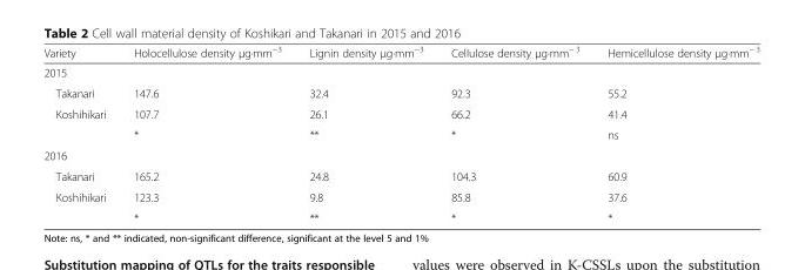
<table><thead><tr><td>Variety</td><td>Holocellulose density μg·mm<sup>−3</sup></td><td>Lignin density μg·mm<sup>−3</sup></td><td>Cellulose density μg·mm<sup>− 3</sup></td><td>Hemicellulose density μg·mm<sup>− 3</sup></td></tr></thead><tbody><tr><td colspan="5">2015</td></tr><tr><td>Takanari</td><td>147.6</td><td>32.4</td><td>92.3</td><td>55.2</td></tr><tr><td rowspan="2">Koshihikari</td><td>107.7</td><td>26.1</td><td>66.2</td><td>41.4</td></tr><tr><td>*</td><td>**</td><td>*</td><td>ns</td></tr><tr><td colspan="5">2016</td></tr><tr><td>Takanari</td><td>165.2</td><td>24.8</td><td>104.3</td><td>60.9</td></tr><tr><td rowspan="2">Koshihikari</td><td>123.3</td><td>9.8</td><td>85.8</td><td>37.6</td></tr><tr><td>*</td><td>**</td><td>*</td><td>*</td></tr></tbody></table>